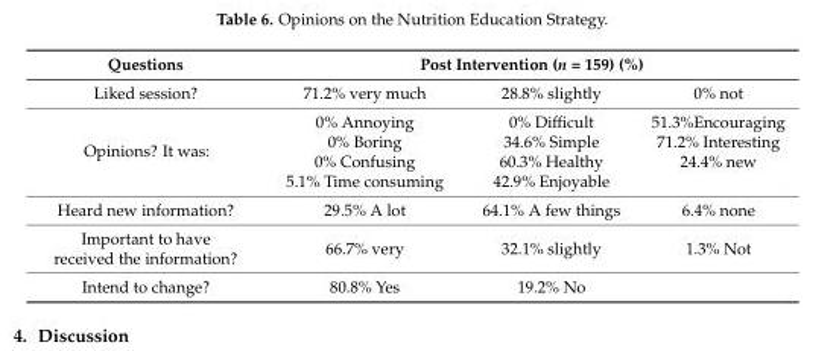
<table><thead><tr><td rowspan="2">Questions Liked session?</td><td colspan="3">Post Intervention (n = 159) (%)</td></tr><tr><td>71.2% very much</td><td>28.8% slightly</td><td>0% not</td></tr></thead><tbody><tr><td rowspan="4">Opinions? It was:</td><td>0% Annoying</td><td>0% Difficult</td><td>51.3%Encouraging</td></tr><tr><td>0% Boring</td><td>34.6% Simple</td><td>71.2% Interesting</td></tr><tr><td>0% Confusing</td><td>60.3% Healthy</td><td>24.4% new</td></tr><tr><td>5.1% Time consuming</td><td>42.9% Enjoyable</td><td></td></tr><tr><td>Heard new information?</td><td>29.5% A lot</td><td>64.1% A few things</td><td>6.4% none</td></tr><tr><td>Important to have received the information?</td><td>66.7% very</td><td>32.1% slightly</td><td>1.3% Not</td></tr><tr><td>Intend to change?</td><td>80.8% Yes</td><td>19.2% No</td><td></td></tr></tbody></table>